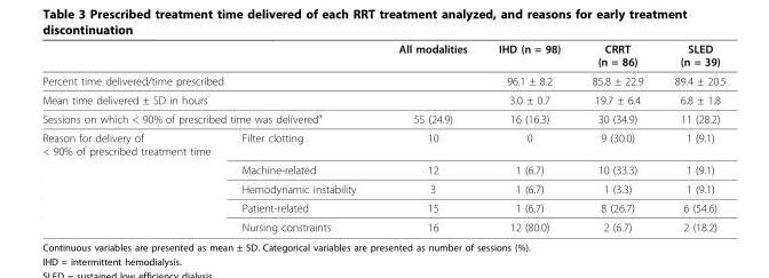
<table><thead><tr><td></td><td></td><td>All modalities</td><td>IHD (n = 98)</td><td>CRRT (n = 86)</td><td>SLED (n = 39)</td></tr></thead><tbody><tr><td colspan="2">Percent time delivered/time prescribed</td><td></td><td>96.1 ± 8.2</td><td>85.8 ± 22.9</td><td>89.4 ± 20.5</td></tr><tr><td colspan="2">Mean time delivered ± SD in hours</td><td></td><td>3.0 ± 0.7</td><td>19.7 ± 6.4</td><td>6.8 ± 1.8</td></tr><tr><td colspan="2">Sessions on which &lt; 90% of prescribed time was delivered<sup>a</sup></td><td>55 (24.9)</td><td>16 (16.3)</td><td>30 (34.9)</td><td>11 (28.2)</td></tr><tr><td rowspan="5">Reason for delivery of &lt; 90% of prescribed treatment time</td><td>Filter clotting</td><td>10</td><td>0</td><td>9 (30.0)</td><td>1 (9.1)</td></tr><tr><td>Machine-related</td><td>12</td><td>1 (6.7)</td><td>10 (33.3)</td><td>1 (9.1)</td></tr><tr><td>Hemodynamic instability</td><td>3</td><td>1 (6.7)</td><td>1 (3.3)</td><td>1 (9.1)</td></tr><tr><td>Patient-related</td><td>15</td><td>1 (6.7)</td><td>8 (26.7)</td><td>6 (54.6)</td></tr><tr><td>Nursing constraints</td><td>16</td><td>12 (80.0)</td><td>2 (6.7)</td><td>2 (18.2)</td></tr></tbody></table>